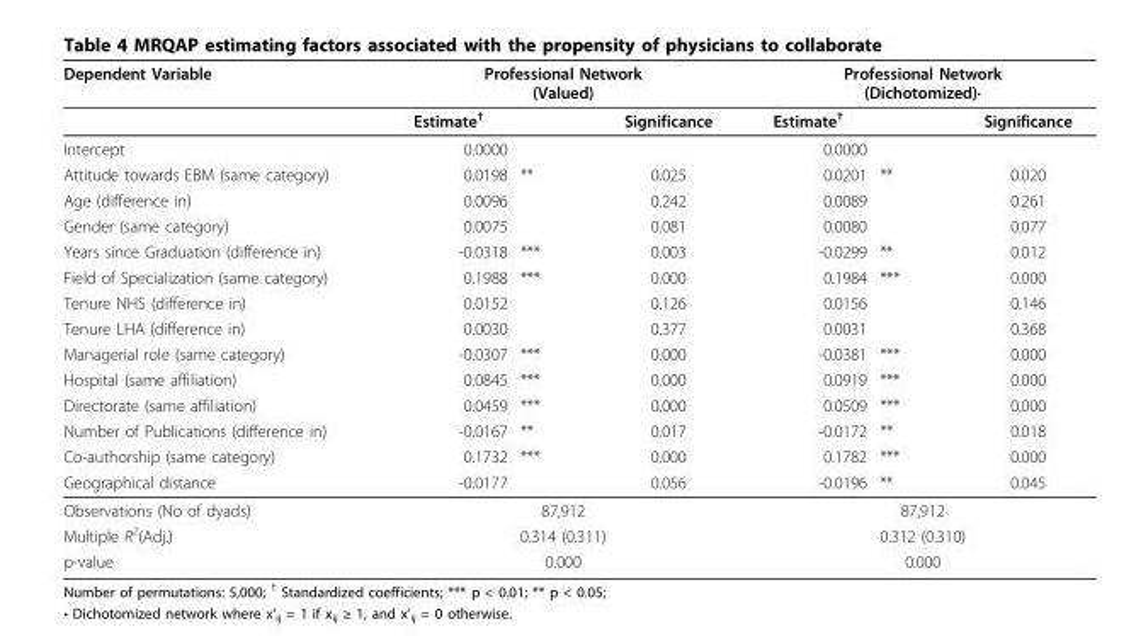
<table><thead><tr><td rowspan="2">Dependent Variable</td><td colspan="3">Professional Network (Valued)</td><td colspan="3">Professional Network (Dichotomized)·</td></tr><tr><td>Estimate<sup>†</sup></td><td></td><td>Significance</td><td>Estimate<sup>†</sup></td><td></td><td>Significance</td></tr></thead><tbody><tr><td>Intercept</td><td>0.0000</td><td></td><td></td><td>0.0000</td><td></td><td></td></tr><tr><td>Attitude towards EBM (same category)</td><td>0.0198</td><td>**</td><td>0.025</td><td>0.0201</td><td>**</td><td>0.020</td></tr><tr><td>Age (difference in)</td><td>0.0096</td><td></td><td>0.242</td><td>0.0089</td><td></td><td>0.261</td></tr><tr><td>Gender (same category)</td><td>0.0075</td><td></td><td>0.081</td><td>0.0080</td><td></td><td>0.077</td></tr><tr><td>Years since Graduation (difference in)</td><td>-0.0318</td><td>***</td><td>0.003</td><td>-0.0299</td><td>**</td><td>0.012</td></tr><tr><td>Field of Specialization (same category)</td><td>0.1988</td><td>***</td><td>0.000</td><td>0.1984</td><td>***</td><td>0.000</td></tr><tr><td>Tenure NHS (difference in)</td><td>0.0152</td><td></td><td>0.126</td><td>0.0156</td><td></td><td>0.146</td></tr><tr><td>Tenure LHA (difference in)</td><td>0.0030</td><td></td><td>0.377</td><td>0.0031</td><td></td><td>0.368</td></tr><tr><td>Managerial role (same category)</td><td>-0.0307</td><td>***</td><td>0.000</td><td>-0.0381</td><td>***</td><td>0.000</td></tr><tr><td>Hospital (same affiliation)</td><td>0.0845</td><td>***</td><td>0.000</td><td>0.0919</td><td>***</td><td>0.000</td></tr><tr><td>Directorate (same affiliation)</td><td>0.0459</td><td>***</td><td>0.000</td><td>0.0509</td><td>***</td><td>0.000</td></tr><tr><td>Number of Publications (difference in)</td><td>-0.0167</td><td>**</td><td>0.017</td><td>-0.0172</td><td>**</td><td>0.018</td></tr><tr><td>Co-authorship (same category)</td><td>0.1732</td><td>***</td><td>0.000</td><td>0.1782</td><td>***</td><td>0.000</td></tr><tr><td>Geographical distance</td><td>-0.0177</td><td></td><td>0.056</td><td>-0.0196</td><td>**</td><td>0.045</td></tr><tr><td>Observations (No of dyads)</td><td colspan="3">87,912</td><td colspan="3">87,912</td></tr><tr><td>Multiple R<sup>2</sup>(Adj.)</td><td colspan="3">0.314 (0.311)</td><td colspan="3">0.312 (0.310)</td></tr><tr><td>p-value</td><td colspan="3">0.000</td><td colspan="3">0.000</td></tr></tbody></table>